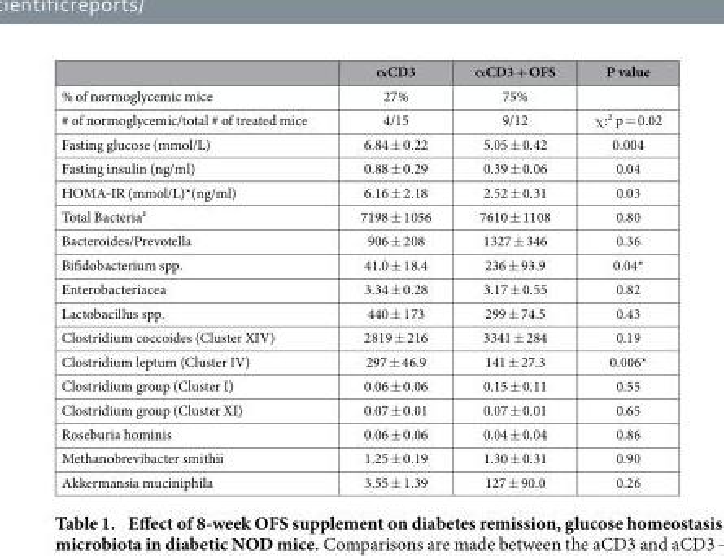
<table><thead><tr><td></td><td>αCD3</td><td>αCD3 + OFS</td><td>P value</td></tr></thead><tbody><tr><td>% of normoglycemic mice</td><td>27%</td><td>75%</td><td></td></tr><tr><td># of normoglycemic/total # of treated mice</td><td>4/15</td><td>9/12</td><td>χ :<sup>2</sup> p = 0.02</td></tr><tr><td>Fasting glucose (mmol/L)</td><td>6.84 ± 0.22</td><td>5.05 ± 0.42</td><td>0.004</td></tr><tr><td>Fasting insulin (ng/ml)</td><td>0.88 ± 0.29</td><td>0.39 ± 0.06</td><td>0.04</td></tr><tr><td>HOMA-IR (mmol/L)*(ng/ml)</td><td>6.16 ± 2.18</td><td>2.52 ± 0.31</td><td>0.03</td></tr><tr><td>Total Bacteria<sup>#</sup></td><td>7198 ± 1056</td><td>7610 ± 1108</td><td>0.80</td></tr><tr><td>Bacteroides/Prevotella</td><td>906 ± 208</td><td>1327 ± 346</td><td>0.36</td></tr><tr><td>Bifidobacterium spp.</td><td>41.0 ± 18.4</td><td>236 ± 93.9</td><td>0.04*</td></tr><tr><td>Enterobacteriacea</td><td>3.34 ± 0.28</td><td>3.17 ± 0.55</td><td>0.82</td></tr><tr><td>Lactobacillus spp.</td><td>440 ± 173</td><td>299 ± 74.5</td><td>0.43</td></tr><tr><td>Clostridium coccoides (Cluster XIV)</td><td>2819 ± 216</td><td>3341 ± 284</td><td>0.19</td></tr><tr><td>Clostridium leptum (Cluster IV)</td><td>297 ± 46.9</td><td>141 ± 27.3</td><td>0.006*</td></tr><tr><td>Clostridium group (Cluster I)</td><td>0.06 ± 0.06</td><td>0.15 ± 0.11</td><td>0.55</td></tr><tr><td>Clostridium group (Cluster XI)</td><td>0.07 ± 0.01</td><td>0.07 ± 0.01</td><td>0.65</td></tr><tr><td>Roseburia hominis</td><td>0.06 ± 0.06</td><td>0.04 ± 0.04</td><td>0.86</td></tr><tr><td>Methanobrevibacter smithii</td><td>1.25 ± 0.19</td><td>1.30 ± 0.31</td><td>0.90</td></tr><tr><td>Akkermansia muciniphila</td><td>3.55 ± 1.39</td><td>127 ± 90.0</td><td>0.26</td></tr></tbody></table>